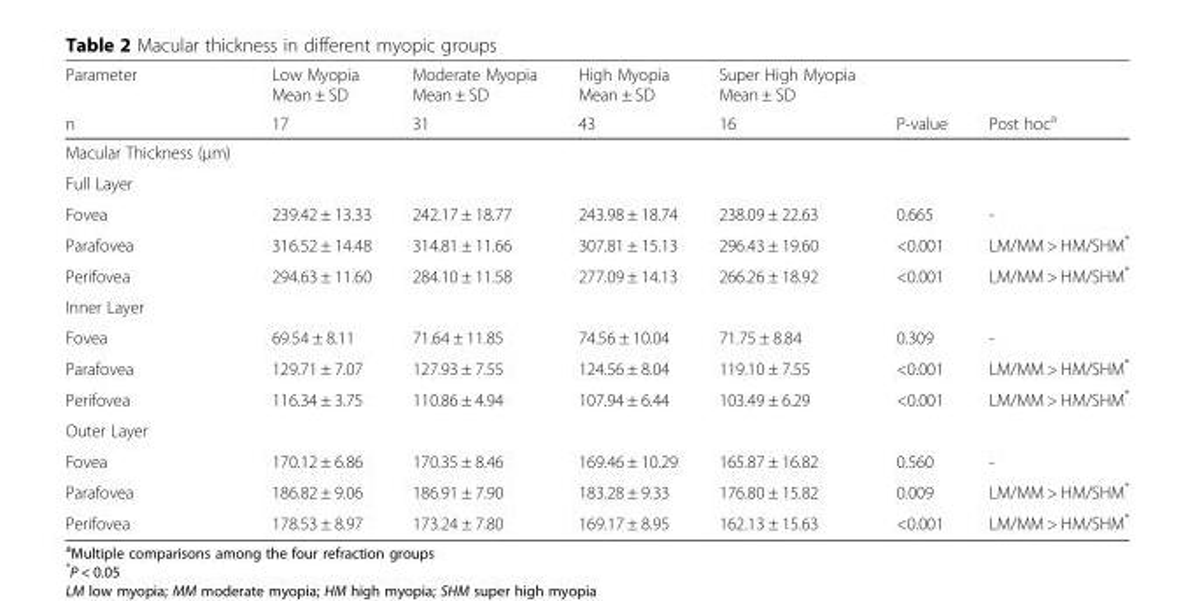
<table><thead><tr><td rowspan="2">Parameter n</td><td rowspan="2">Low Myopia Mean ± SD 17</td><td rowspan="2">Moderate Myopia Mean ± SD 31</td><td rowspan="2">High Myopia Mean ± SD 43</td><td rowspan="2">Super High Myopia Mean ± SD 16</td><td rowspan="2">P-value</td><td rowspan="2">Post hoc<sup>a</sup></td></tr><tr></tr></thead><tbody><tr><td colspan="7">Macular Thickness (μm)</td></tr><tr><td colspan="7">Full Layer</td></tr><tr><td>Fovea</td><td>239.42 ± 13.33</td><td>242.17 ± 18.77</td><td>243.98 ± 18.74</td><td>238.09 ± 22.63</td><td>0.665</td><td>-</td></tr><tr><td>Parafovea</td><td>316.52 ± 14.48</td><td>314.81 ± 11.66</td><td>307.81 ± 15.13</td><td>296.43 ± 19.60</td><td>&lt;0.001</td><td>LM/MM &gt; HM/SHM*</td></tr><tr><td>Perifovea</td><td>294.63 ± 11.60</td><td>284.10 ± 11.58</td><td>277.09 ± 14.13</td><td>266.26 ± 18.92</td><td>&lt;0.001</td><td>LM/MM &gt; HM/SHM*</td></tr><tr><td colspan="7">Inner Layer</td></tr><tr><td>Fovea</td><td>69.54 ± 8.11</td><td>71.64 ± 11.85</td><td>74.56 ± 10.04</td><td>71.75 ± 8.84</td><td>0.309</td><td>-</td></tr><tr><td>Parafovea</td><td>129.71 ± 7.07</td><td>127.93 ± 7.55</td><td>124.56 ± 8.04</td><td>119.10 ± 7.55</td><td>&lt;0.001</td><td>LM/MM &gt; HM/SHM*</td></tr><tr><td>Perifovea</td><td>116.34 ± 3.75</td><td>110.86 ± 4.94</td><td>107.94 ± 6.44</td><td>103.49 ± 6.29</td><td>&lt;0.001</td><td>LM/MM &gt; HM/SHM*</td></tr><tr><td colspan="7">Outer Layer</td></tr><tr><td>Fovea</td><td>170.12 ± 6.86</td><td>170.35 ± 8.46</td><td>169.46 ± 10.29</td><td>165.87 ± 16.82</td><td>0.560</td><td>-</td></tr><tr><td>Parafovea</td><td>186.82 ± 9.06</td><td>186.91 ± 7.90</td><td>183.28 ± 9.33</td><td>176.80 ± 15.82</td><td>0.009</td><td>LM/MM &gt; HM/SHM*</td></tr><tr><td>Perifovea</td><td>178.53 ± 8.97</td><td>173.24 ± 7.80</td><td>169.17 ± 8.95</td><td>162.13 ± 15.63</td><td>&lt;0.001</td><td>LM/MM &gt; HM/SHM*</td></tr></tbody></table>